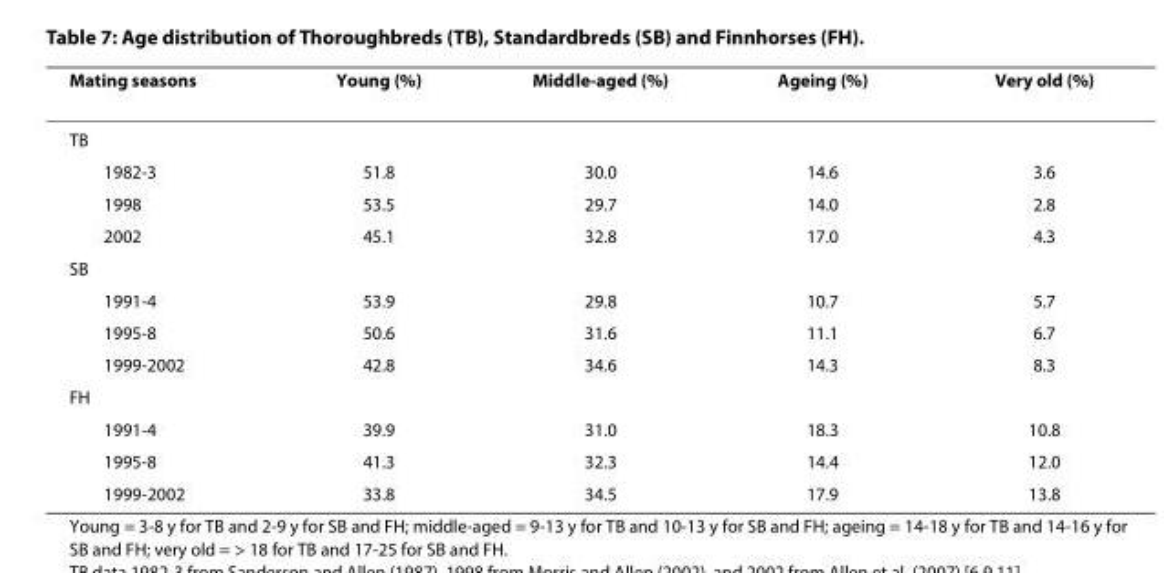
<table><thead><tr><td>Mating seasons</td><td>Young (%)</td><td>Middle-aged (%)</td><td>Ageing (%)</td><td>Very old (%)</td></tr></thead><tbody><tr><td colspan="5">TB</td></tr><tr><td>1982-3</td><td>51.8</td><td>30.0</td><td>14.6</td><td>3.6</td></tr><tr><td>1998</td><td>53.5</td><td>29.7</td><td>14.0</td><td>2.8</td></tr><tr><td>2002</td><td>45.1</td><td>32.8</td><td>17.0</td><td>4.3</td></tr><tr><td colspan="5">SB</td></tr><tr><td>1991-4</td><td>53.9</td><td>29.8</td><td>10.7</td><td>5.7</td></tr><tr><td>1995-8</td><td>50.6</td><td>31.6</td><td>11.1</td><td>6.7</td></tr><tr><td>1999-2002</td><td>42.8</td><td>34.6</td><td>14.3</td><td>8.3</td></tr><tr><td colspan="5">FH</td></tr><tr><td>1991-4</td><td>39.9</td><td>31.0</td><td>18.3</td><td>10.8</td></tr><tr><td>1995-8</td><td>41.3</td><td>32.3</td><td>14.4</td><td>12.0</td></tr><tr><td>1999-2002</td><td>33.8</td><td>34.5</td><td>17.9</td><td>13.8</td></tr></tbody></table>